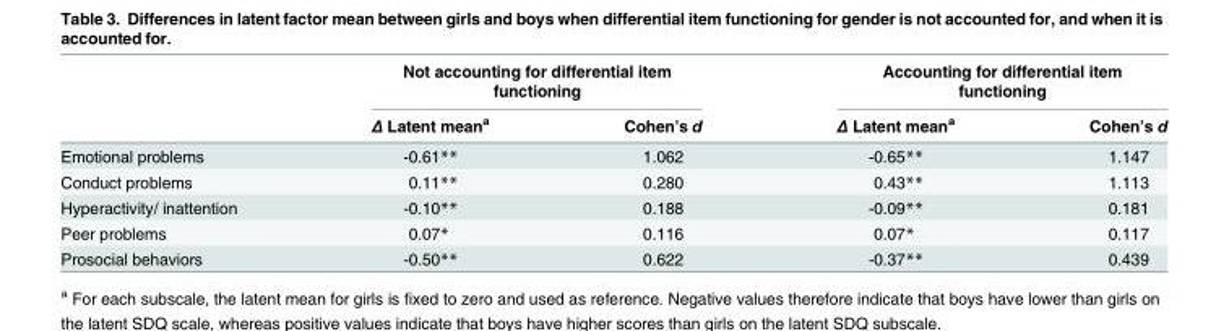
<table><thead><tr><td rowspan="2"></td><td colspan="2">Not accounting for differential item functioning</td><td colspan="2">Accounting for differential item functioning</td></tr><tr><td>Δ Latent mean<sup>a</sup></td><td>Cohen’s d</td><td>Δ Latent mean<sup>a</sup></td><td>Cohen’s d</td></tr></thead><tbody><tr><td>Emotional problems</td><td>-0.61**</td><td>1.062</td><td>-0.65**</td><td>1.147</td></tr><tr><td>Conduct problems</td><td>0.11**</td><td>0.280</td><td>0.43**</td><td>1.113</td></tr><tr><td>Hyperactivity/ inattention</td><td>-0.10**</td><td>0.188</td><td>-0.09**</td><td>0.181</td></tr><tr><td>Peer problems</td><td>0.07*</td><td>0.116</td><td>0.07*</td><td>0.117</td></tr><tr><td>Prosocial behaviors</td><td>-0.50**</td><td>0.622</td><td>-0.37**</td><td>0.439</td></tr></tbody></table>